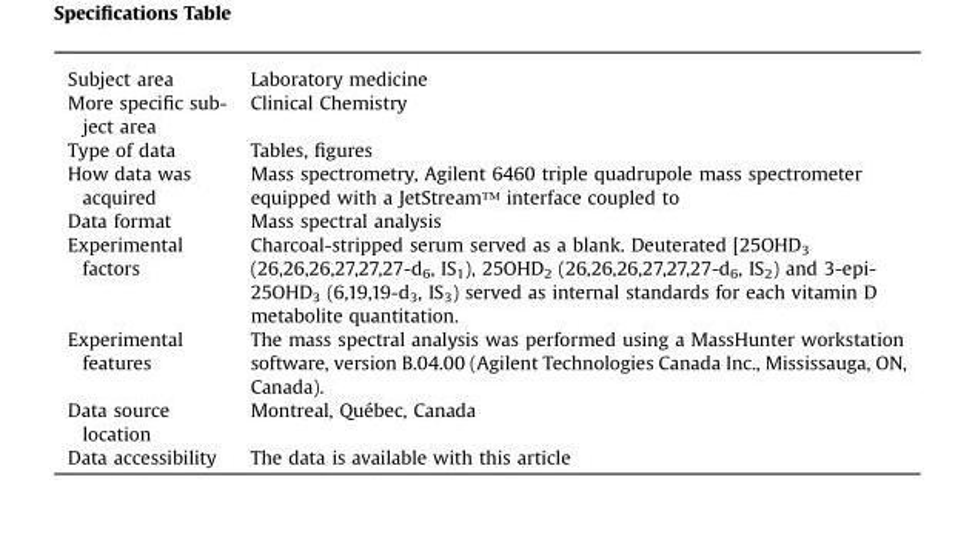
<table><tbody><tr><td>Subject area</td><td>Laboratory medicine</td></tr><tr><td>More specific sub- ject area</td><td>Clinical Chemistry</td></tr><tr><td>Type of data</td><td>Tables, figures</td></tr><tr><td>How data was acquired</td><td>Mass spectrometry, Agilent 6460 triple quadrupole mass spectrometer equipped with a JetStream™ interface coupled to</td></tr><tr><td>Data format</td><td>Mass spectral analysis</td></tr><tr><td>Experimental factors</td><td>Charcoal-stripped serum served as a blank. Deuterated [25OHD<sub>3</sub> (26,26,26,27,27,27-d<sub>6</sub>, IS<sub>1</sub>), 25OHD<sub>2</sub> (26,26,26,27,27,27-d<sub>6</sub>, IS<sub>2</sub>) and 3-epi- 25OHD<sub>3</sub> (6,19,19-d<sub>3</sub>, IS<sub>3</sub>) served as internal standards for each vitamin D metabolite quantitation.</td></tr><tr><td>Experimental features</td><td>The mass spectral analysis was performed using a MassHunter workstation software, version B.04.00 (Agilent Technologies Canada Inc., Mississauga, ON, Canada).</td></tr><tr><td>Data source location</td><td>Montreal, Québec, Canada</td></tr><tr><td>Data accessibility</td><td>The data is available with this article</td></tr></tbody></table>